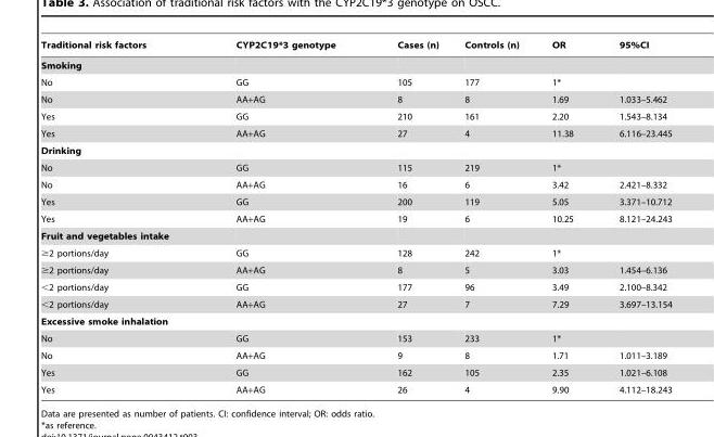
<table><thead><tr><td>Traditional risk factors</td><td>CYP2C19*3 genotype</td><td>Cases (n)</td><td>Controls (n)</td><td>OR</td><td>95%CI</td></tr></thead><tbody><tr><td colspan="6">Smoking</td></tr><tr><td>No</td><td>GG</td><td>105</td><td>177</td><td>1*</td><td></td></tr><tr><td>No</td><td>AA+AG</td><td>8</td><td>8</td><td>1.69</td><td>1.033–5.462</td></tr><tr><td>Yes</td><td>GG</td><td>210</td><td>161</td><td>2.20</td><td>1.543–8.134</td></tr><tr><td>Yes</td><td>AA+AG</td><td>27</td><td>4</td><td>11.38</td><td>6.116–23.445</td></tr><tr><td colspan="6">Drinking</td></tr><tr><td>No</td><td>GG</td><td>115</td><td>219</td><td>1*</td><td></td></tr><tr><td>No</td><td>AA+AG</td><td>16</td><td>6</td><td>3.42</td><td>2.421–8.332</td></tr><tr><td>Yes</td><td>GG</td><td>200</td><td>119</td><td>5.05</td><td>3.371–10.712</td></tr><tr><td>Yes</td><td>AA+AG</td><td>19</td><td>6</td><td>10.25</td><td>8.121–24.243</td></tr><tr><td colspan="6">Fruit and vegetables intake</td></tr><tr><td>≥2 portions/day</td><td>GG</td><td>128</td><td>242</td><td>1*</td><td></td></tr><tr><td>≥2 portions/day</td><td>AA+AG</td><td>8</td><td>5</td><td>3.03</td><td>1.454–6.136</td></tr><tr><td>&lt;2 portions/day</td><td>GG</td><td>177</td><td>96</td><td>3.49</td><td>2.100–8.342</td></tr><tr><td>&lt;2 portions/day</td><td>AA+AG</td><td>27</td><td>7</td><td>7.29</td><td>3.697–13.154</td></tr><tr><td colspan="6">Excessive smoke inhalation</td></tr><tr><td>No</td><td>GG</td><td>153</td><td>233</td><td>1*</td><td></td></tr><tr><td>No</td><td>AA+AG</td><td>9</td><td>8</td><td>1.71</td><td>1.011–3.189</td></tr><tr><td>Yes</td><td>GG</td><td>162</td><td>105</td><td>2.35</td><td>1.021–6.108</td></tr><tr><td>Yes</td><td>AA+AG</td><td>26</td><td>4</td><td>9.90</td><td>4.112–18.243</td></tr></tbody></table>